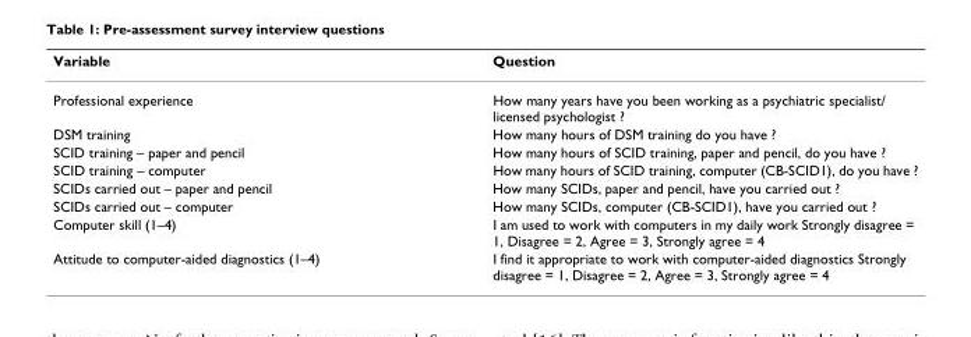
<table><thead><tr><td>Variable</td><td>Question</td></tr></thead><tbody><tr><td>Professional experience</td><td>How many years have you been working as a psychiatric specialist/ licensed psychologist ?</td></tr><tr><td>DSM training</td><td>How many hours of DSM training do you have ?</td></tr><tr><td>SCID training – paper and pencil</td><td>How many hours of SCID training, paper and pencil, do you have ?</td></tr><tr><td>SCID training – computer</td><td>How many hours of SCID training, computer (CB-SCID1), do you have ?</td></tr><tr><td>SCIDs carried out – paper and pencil</td><td>How many SCIDs, paper and pencil, have you carried out ?</td></tr><tr><td>SCIDs carried out – computer</td><td>How many SCIDs, computer (CB-SCID1), have you carried out ?</td></tr><tr><td>Computer skill (1–4)</td><td>I am used to work with computers in my daily work Strongly disagree = 1, Disagree = 2, Agree = 3, Strongly agree = 4</td></tr><tr><td>Attitude to computer-aided diagnostics (1–4)</td><td>I find it appropriate to work with computer-aided diagnostics Strongly disagree = 1, Disagree = 2, Agree = 3, Strongly agree = 4</td></tr></tbody></table>